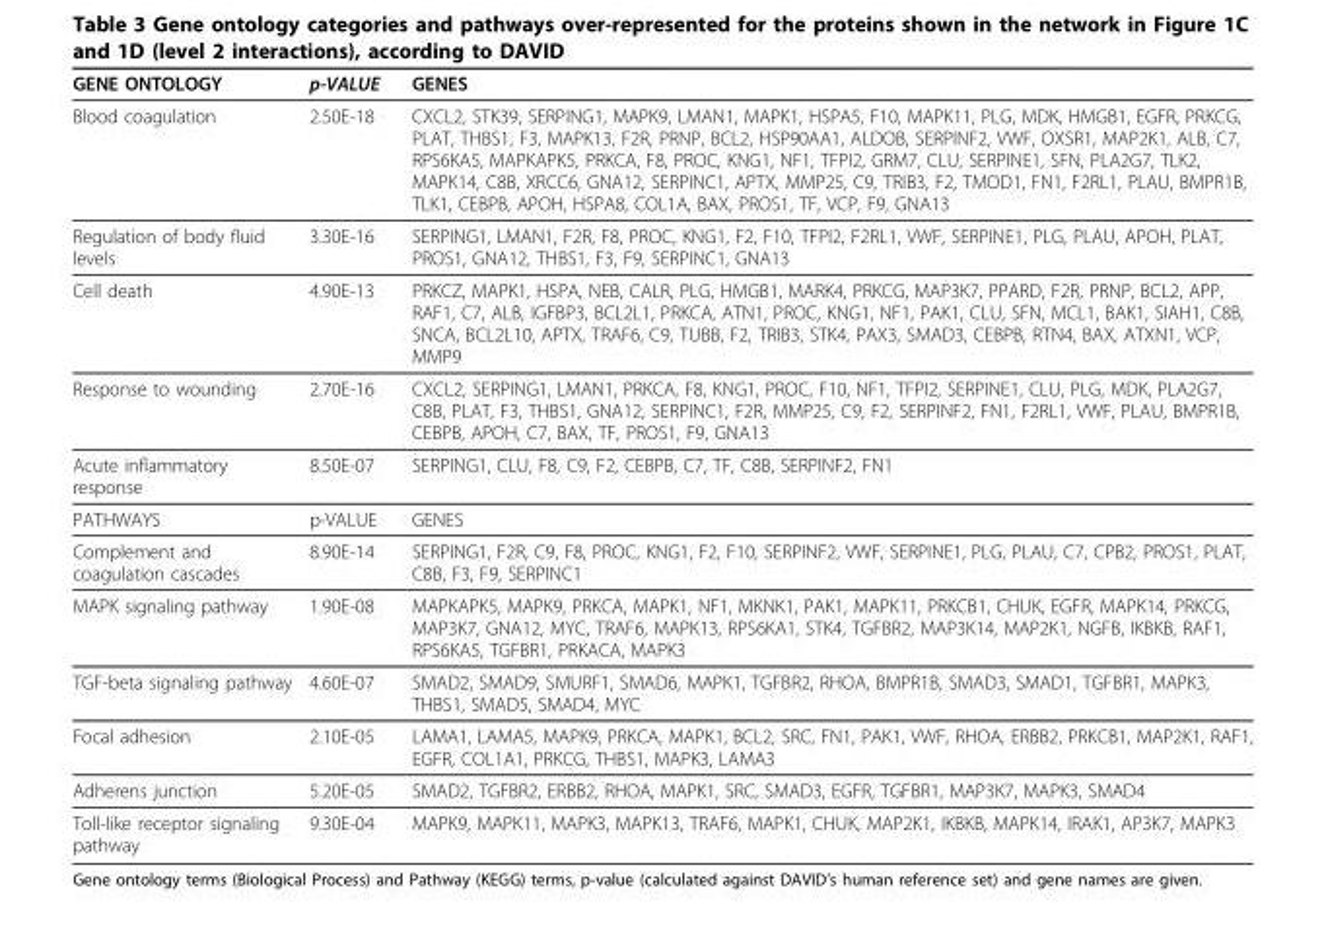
<table><thead><tr><td>GENE ONTOLOGY</td><td>p-VALUE</td><td>GENES</td></tr></thead><tbody><tr><td>Blood coagulation</td><td>2.50E-18</td><td>CXCL2, STK39, SERPING1, MAPK9, LMAN1, MAPK1, HSPA5, F10, MAPK11, PLG, MDK, HMGB1, EGFR, PRKCG, PLAT, THBS1, F3, MAPK13, F2R, PRNP, BCL2, HSP90AA1, ALDOB, SERPINF2, VWF, OXSR1, MAP2K1, ALB, C7, RPS6KA5, MAPKAPK5, PRKCA, F8, PROC, KNG1, NF1, TFPI2, GRM7, CLU, SERPINE1, SFN, PLA2G7, TLK2, MAPK14, C8B, XRCC6, GNA12, SERPINC1, APTX, MMP25, C9, TRIB3, F2, TMOD1, FN1, F2RL1, PLAU, BMPR1B, TLK1, CEBPB, APOH, HSPA8, COL1A, BAX, PROS1, TF, VCP, F9, GNA13</td></tr><tr><td>Regulation of body fluid levels</td><td>3.30E-16</td><td>SERPING1, LMAN1, F2R, F8, PROC, KNG1, F2, F10, TFPI2, F2RL1, VWF, SERPINE1, PLG, PLAU, APOH, PLAT, PROS1, GNA12, THBS1, F3, F9, SERPINC1, GNA13</td></tr><tr><td>Cell death</td><td>4.90E-13</td><td>PRKCZ, MAPK1, HSPA, NEB, CALR, PLG, HMGB1, MARK4, PRKCG, MAP3K7, PPARD, F2R, PRNP, BCL2, APP, RAF1, C7, ALB, IGFBP3, BCL2L1, PRKCA, ATN1, PROC, KNG1, NF1, PAK1, CLU, SFN, MCL1, BAK1, SIAH1, C8B, SNCA, BCL2L10, APTX, TRAF6, C9, TUBB, F2, TRIB3, STK4, PAX3, SMAD3, CEBPB, RTN4, BAX, ATXN1, VCP, MMP9</td></tr><tr><td>Response to wounding</td><td>2.70E-16</td><td>CXCL2, SERPING1, LMAN1, PRKCA, F8, KNG1, PROC, F10, NF1, TFPI2, SERPINE1, CLU, PLG, MDK, PLA2G7, C8B, PLAT, F3, THBS1, GNA12, SERPINC1, F2R, MMP25, C9, F2, SERPINF2, FN1, F2RL1, VWF, PLAU, BMPR1B, CEBPB, APOH, C7, BAX, TF, PROS1, F9, GNA13</td></tr><tr><td>Acute inflammatory response</td><td>8.50E-07</td><td>SERPING1, CLU, F8, C9, F2, CEBPB, C7, TF, C8B, SERPINF2, FN1</td></tr><tr><td>PATHWAYS</td><td>p-VALUE</td><td>GENES</td></tr><tr><td>Complement and coagulation cascades</td><td>8.90E-14</td><td>SERPING1, F2R, C9, F8, PROC, KNG1, F2, F10, SERPINF2, VWF, SERPINE1, PLG, PLAU, C7, CPB2, PROS1, PLAT, C8B, F3, F9, SERPINC1</td></tr><tr><td>MAPK signaling pathway</td><td>1.90E-08</td><td>MAPKAPK5, MAPK9, PRKCA, MAPK1, NF1, MKNK1, PAK1, MAPK11, PRKCB1, CHUK, EGFR, MAPK14, PRKCG, MAP3K7, GNA12, MYC, TRAF6, MAPK13, RPS6KA1, STK4, TGFBR2, MAP3K14, MAP2K1, NGFB, IKBKB, RAF1, RPS6KA5, TGFBR1, PRKACA, MAPK3</td></tr><tr><td>TGF-beta signaling pathway</td><td>4.60E-07</td><td>SMAD2, SMAD9, SMURF1, SMAD6, MAPK1, TGFBR2, RHOA, BMPR1B, SMAD3, SMAD1, TGFBR1, MAPK3, THBS1, SMAD5, SMAD4, MYC</td></tr><tr><td>Focal adhesion</td><td>2.10E-05</td><td>LAMA1, LAMA5, MAPK9, PRKCA, MAPK1, BCL2, SRC, FN1, PAK1, VWF, RHOA, ERBB2, PRKCB1, MAP2K1, RAF1, EGFR, COL1A1, PRKCG, THBS1, MAPK3, LAMA3</td></tr><tr><td>Adherens junction</td><td>5.20E-05</td><td>SMAD2, TGFBR2, ERBB2, RHOA, MAPK1, SRC, SMAD3, EGFR, TGFBR1, MAP3K7, MAPK3, SMAD4</td></tr><tr><td>Toll-like receptor signaling pathway</td><td>9.30E-04</td><td>MAPK9, MAPK11, MAPK3, MAPK13, TRAF6, MAPK1, CHUK, MAP2K1, IKBKB, MAPK14, IRAK1, AP3K7, MAPK3</td></tr></tbody></table>